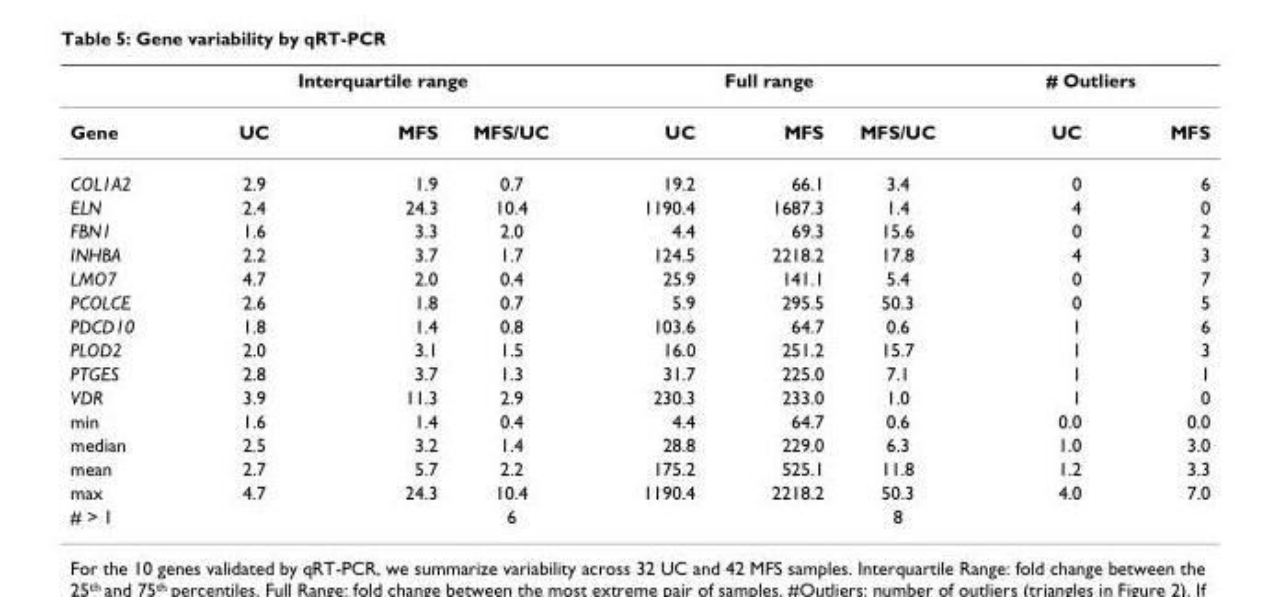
<table><thead><tr><td rowspan="2">Gene</td><td colspan="3">Interquartile range</td><td colspan="3">Full range</td><td colspan="2"># Outliers</td></tr><tr><td>UC</td><td>MFS</td><td>MFS/UC</td><td>UC</td><td>MFS</td><td>MFS/UC</td><td>UC</td><td>MFS</td></tr></thead><tbody><tr><td>COL1A2</td><td>2.9</td><td>1.9</td><td>0.7</td><td>19.2</td><td>66.1</td><td>3.4</td><td>0</td><td>6</td></tr><tr><td>ELN</td><td>2.4</td><td>24.3</td><td>10.4</td><td>1190.4</td><td>1687.3</td><td>1.4</td><td>4</td><td>0</td></tr><tr><td>FBN1</td><td>1.6</td><td>3.3</td><td>2.0</td><td>4.4</td><td>69.3</td><td>15.6</td><td>0</td><td>2</td></tr><tr><td>INHBA</td><td>2.2</td><td>3.7</td><td>1.7</td><td>124.5</td><td>2218.2</td><td>17.8</td><td>4</td><td>3</td></tr><tr><td>LMO7</td><td>4.7</td><td>2.0</td><td>0.4</td><td>25.9</td><td>141.1</td><td>5.4</td><td>0</td><td>7</td></tr><tr><td>PCOLCE</td><td>2.6</td><td>1.8</td><td>0.7</td><td>5.9</td><td>295.5</td><td>50.3</td><td>0</td><td>5</td></tr><tr><td>PDCD10</td><td>1.8</td><td>1.4</td><td>0.8</td><td>103.6</td><td>64.7</td><td>0.6</td><td>1</td><td>6</td></tr><tr><td>PLOD2</td><td>2.0</td><td>3.1</td><td>1.5</td><td>16.0</td><td>251.2</td><td>15.7</td><td>1</td><td>3</td></tr><tr><td>PTGES</td><td>2.8</td><td>3.7</td><td>1.3</td><td>31.7</td><td>225.0</td><td>7.1</td><td>1</td><td>1</td></tr><tr><td>VDR</td><td>3.9</td><td>11.3</td><td>2.9</td><td>230.3</td><td>233.0</td><td>1.0</td><td>1</td><td>0</td></tr><tr><td>min</td><td>1.6</td><td>1.4</td><td>0.4</td><td>4.4</td><td>64.7</td><td>0.6</td><td>0.0</td><td>0.0</td></tr><tr><td>median</td><td>2.5</td><td>3.2</td><td>1.4</td><td>28.8</td><td>229.0</td><td>6.3</td><td>1.0</td><td>3.0</td></tr><tr><td>mean</td><td>2.7</td><td>5.7</td><td>2.2</td><td>175.2</td><td>525.1</td><td>11.8</td><td>1.2</td><td>3.3</td></tr><tr><td>max</td><td>4.7</td><td>24.3</td><td>10.4</td><td>1190.4</td><td>2218.2</td><td>50.3</td><td>4.0</td><td>7.0</td></tr><tr><td># &gt; 1</td><td></td><td></td><td>6</td><td></td><td></td><td>8</td><td></td><td></td></tr></tbody></table>